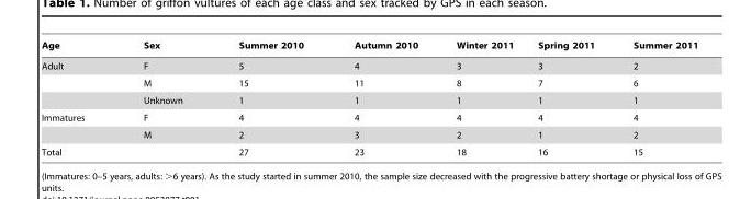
<table><thead><tr><td>Age</td><td>Sex</td><td>Summer 2010</td><td>Autumn 2010</td><td>Winter 2011</td><td>Spring 2011</td><td>Summer 2011</td></tr></thead><tbody><tr><td rowspan="3">Adult</td><td>F</td><td>5</td><td>4</td><td>3</td><td>3</td><td>2</td></tr><tr><td>M</td><td>15</td><td>11</td><td>8</td><td>7</td><td>6</td></tr><tr><td>Unknown</td><td>1</td><td>1</td><td>1</td><td>1</td><td>1</td></tr><tr><td rowspan="2">Immatures</td><td>F</td><td>4</td><td>4</td><td>4</td><td>4</td><td>4</td></tr><tr><td>M</td><td>2</td><td>3</td><td>2</td><td>1</td><td>2</td></tr><tr><td>Total</td><td></td><td>27</td><td>23</td><td>18</td><td>16</td><td>15</td></tr></tbody></table>